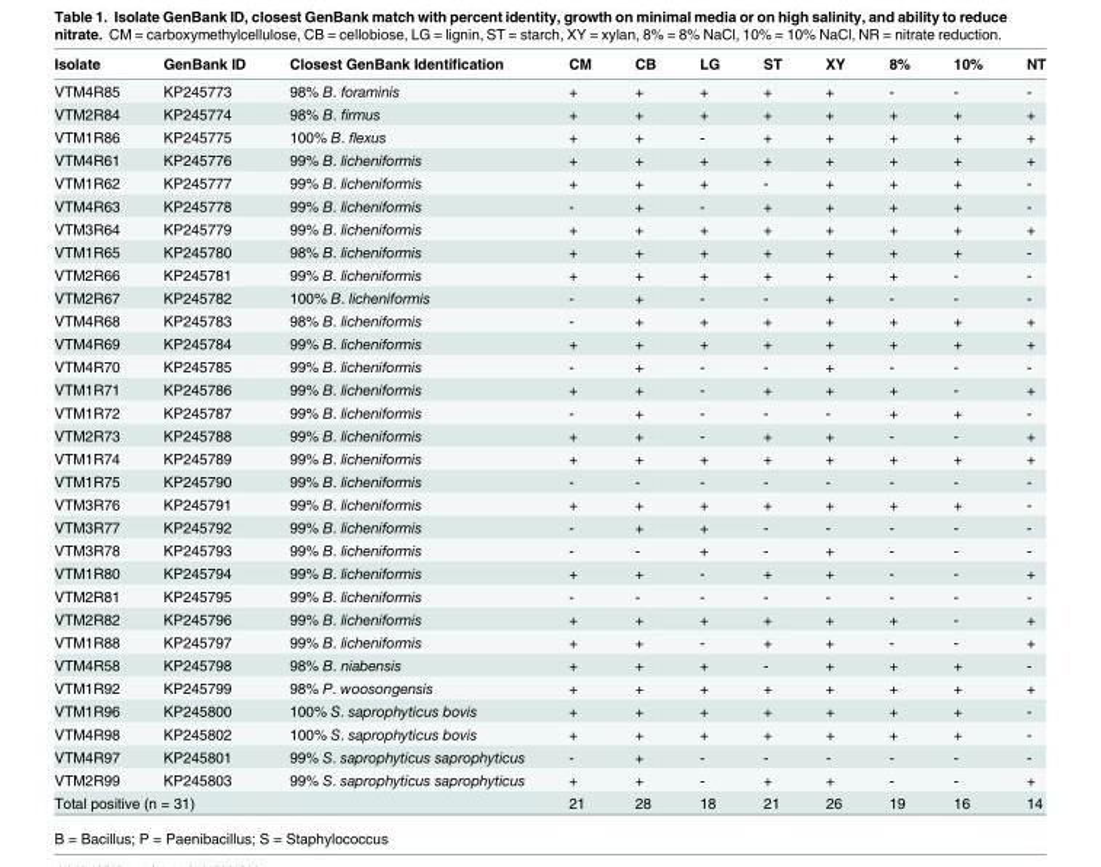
<table><thead><tr><td>Isolate</td><td>GenBank ID</td><td>Closest GenBank Identification</td><td>CM</td><td>CB</td><td>LG</td><td>ST</td><td>XY</td><td>8%</td><td>10%</td><td>NT</td></tr></thead><tbody><tr><td>VTM4R85</td><td>KP245773</td><td>98% B. foraminis</td><td>+</td><td>+</td><td>+</td><td>+</td><td>+</td><td>-</td><td>-</td><td>-</td></tr><tr><td>VTM2R84</td><td>KP245774</td><td>98% B. firmus</td><td>+</td><td>+</td><td>+</td><td>+</td><td>+</td><td>+</td><td>+</td><td>+</td></tr><tr><td>VTM1R86</td><td>KP245775</td><td>100% B. flexus</td><td>+</td><td>+</td><td>-</td><td>+</td><td>+</td><td>+</td><td>+</td><td>+</td></tr><tr><td>VTM4R61</td><td>KP245776</td><td>99% B. licheniformis</td><td>+</td><td>+</td><td>+</td><td>+</td><td>+</td><td>+</td><td>+</td><td>+</td></tr><tr><td>VTM1R62</td><td>KP245777</td><td>99% B. licheniformis</td><td>+</td><td>+</td><td>+</td><td>-</td><td>+</td><td>+</td><td>+</td><td>-</td></tr><tr><td>VTM4R63</td><td>KP245778</td><td>99% B. licheniformis</td><td>-</td><td>+</td><td>-</td><td>+</td><td>+</td><td>+</td><td>+</td><td>-</td></tr><tr><td>VTM3R64</td><td>KP245779</td><td>99% B. licheniformis</td><td>+</td><td>+</td><td>+</td><td>+</td><td>+</td><td>+</td><td>+</td><td>+</td></tr><tr><td>VTM1R65</td><td>KP245780</td><td>98% B. licheniformis</td><td>+</td><td>+</td><td>+</td><td>+</td><td>+</td><td>+</td><td>+</td><td>-</td></tr><tr><td>VTM2R66</td><td>KP245781</td><td>99% B. licheniformis</td><td>+</td><td>+</td><td>+</td><td>+</td><td>+</td><td>+</td><td>-</td><td>-</td></tr><tr><td>VTM2R67</td><td>KP245782</td><td>100% B. licheniformis</td><td>-</td><td>+</td><td>-</td><td>-</td><td>+</td><td>-</td><td>-</td><td>-</td></tr><tr><td>VTM4R68</td><td>KP245783</td><td>98% B. licheniformis</td><td>-</td><td>+</td><td>+</td><td>+</td><td>+</td><td>+</td><td>+</td><td>+</td></tr><tr><td>VTM4R69</td><td>KP245784</td><td>99% B. licheniformis</td><td>+</td><td>+</td><td>+</td><td>+</td><td>+</td><td>+</td><td>+</td><td>+</td></tr><tr><td>VTM4R70</td><td>KP245785</td><td>99% B. licheniformis</td><td>-</td><td>+</td><td>-</td><td>-</td><td>+</td><td>-</td><td>-</td><td>-</td></tr><tr><td>VTM1R71</td><td>KP245786</td><td>99% B. licheniformis</td><td>+</td><td>+</td><td>-</td><td>+</td><td>+</td><td>+</td><td>-</td><td>+</td></tr><tr><td>VTM1R72</td><td>KP245787</td><td>99% B. licheniformis</td><td>-</td><td>+</td><td>-</td><td>-</td><td>-</td><td>+</td><td>+</td><td>-</td></tr><tr><td>VTM2R73</td><td>KP245788</td><td>99% B. licheniformis</td><td>+</td><td>+</td><td>-</td><td>+</td><td>+</td><td>-</td><td>-</td><td>+</td></tr><tr><td>VTM1R74</td><td>KP245789</td><td>99% B. licheniformis</td><td>+</td><td>+</td><td>+</td><td>+</td><td>+</td><td>+</td><td>+</td><td>+</td></tr><tr><td>VTM1R75</td><td>KP245790</td><td>99% B. licheniformis</td><td>-</td><td>-</td><td>-</td><td>-</td><td>-</td><td>-</td><td>-</td><td>-</td></tr><tr><td>VTM3R76</td><td>KP245791</td><td>99% B. licheniformis</td><td>+</td><td>+</td><td>+</td><td>+</td><td>+</td><td>+</td><td>+</td><td>-</td></tr><tr><td>VTM3R77</td><td>KP245792</td><td>99% B. licheniformis</td><td>-</td><td>+</td><td>+</td><td>-</td><td>-</td><td>-</td><td>-</td><td>-</td></tr><tr><td>VTM3R78</td><td>KP245793</td><td>99% B. licheniformis</td><td>-</td><td>-</td><td>+</td><td>-</td><td>+</td><td>-</td><td>-</td><td>-</td></tr><tr><td>VTM1R80</td><td>KP245794</td><td>99% B. licheniformis</td><td>+</td><td>+</td><td>-</td><td>+</td><td>+</td><td>-</td><td>-</td><td>+</td></tr><tr><td>VTM2R81</td><td>KP245795</td><td>99% B. licheniformis</td><td>-</td><td>-</td><td>-</td><td>-</td><td>-</td><td>-</td><td>-</td><td>-</td></tr><tr><td>VTM2R82</td><td>KP245796</td><td>99% B. licheniformis</td><td>+</td><td>+</td><td>+</td><td>+</td><td>+</td><td>+</td><td>-</td><td>+</td></tr><tr><td>VTM1R88</td><td>KP245797</td><td>99% B. licheniformis</td><td>+</td><td>+</td><td>-</td><td>+</td><td>+</td><td>-</td><td>-</td><td>+</td></tr><tr><td>VTM4R58</td><td>KP245798</td><td>98% B. niabensis</td><td>+</td><td>+</td><td>+</td><td>-</td><td>+</td><td>+</td><td>+</td><td>-</td></tr><tr><td>VTM1R92</td><td>KP245799</td><td>98% P. woosongensis</td><td>+</td><td>+</td><td>+</td><td>+</td><td>+</td><td>+</td><td>+</td><td>+</td></tr><tr><td>VTM1R96</td><td>KP245800</td><td>100% S. saprophyticus bovis</td><td>+</td><td>+</td><td>+</td><td>+</td><td>+</td><td>+</td><td>+</td><td>-</td></tr><tr><td>VTM4R98</td><td>KP245802</td><td>100% S. saprophyticus bovis</td><td>+</td><td>+</td><td>+</td><td>+</td><td>+</td><td>+</td><td>+</td><td>-</td></tr><tr><td>VTM4R97</td><td>KP245801</td><td>99% S. saprophyticus saprophyticus</td><td>-</td><td>+</td><td>-</td><td>-</td><td>-</td><td>-</td><td>-</td><td>-</td></tr><tr><td>VTM2R99</td><td>KP245803</td><td>99% S. saprophyticus saprophyticus</td><td>+</td><td>+</td><td>-</td><td>+</td><td>+</td><td>-</td><td>-</td><td>+</td></tr><tr><td colspan="3">Total positive (n = 31)</td><td>21</td><td>28</td><td>18</td><td>21</td><td>26</td><td>19</td><td>16</td><td>14</td></tr></tbody></table>